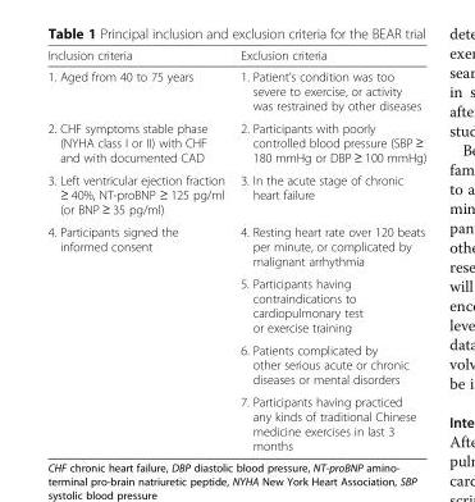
<table><thead><tr><td>Inclusion criteria</td><td>Exclusion criteria</td></tr></thead><tbody><tr><td>1. Aged from 40 to 75 years</td><td>1. Patient’s condition was too severe to exercise, or activity was restrained by other diseases</td></tr><tr><td>2. CHF symptoms stable phase (NYHA class I or II) with CHF and with documented CAD</td><td>2. Participants with poorly controlled blood pressure (SBP ≥ 180 mmHg or DBP ≥ 100 mmHg)</td></tr><tr><td>3. Left ventricular ejection fraction ≥ 40%, NT-proBNP ≥ 125 pg/ml (or BNP ≥ 35 pg/ml)</td><td>3. In the acute stage of chronic heart failure</td></tr><tr><td rowspan="4">4. Participants signed the informed consent</td><td>4. Resting heart rate over 120 beats per minute, or complicated by malignant arrhythmia</td></tr><tr><td>5. Participants having contraindications to cardiopulmonary test or exercise training</td></tr><tr><td>6. Patients complicated by other serious acute or chronic diseases or mental disorders</td></tr><tr><td>7. Participants having practiced any kinds of traditional Chinese medicine exercises in last 3 months</td></tr></tbody></table>